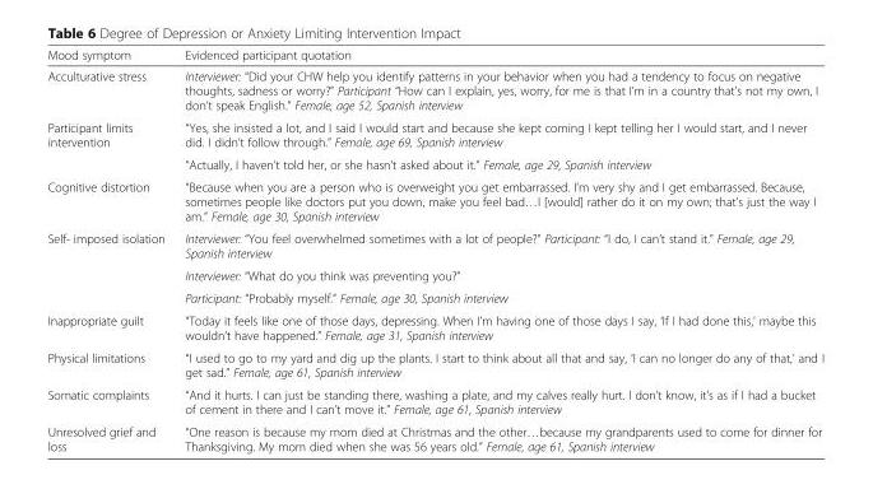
<table><thead><tr><td>Mood symptom</td><td>Evidenced participant quotation</td></tr></thead><tbody><tr><td>Acculturative stress</td><td>Interviewer: “Did your CHW help you identify patterns in your behavior when you had a tendency to focus on negative thoughts, sadness or worry?” Participant “How can I explain, yes, worry, for me is that I’m in a country that’s not my own, I don’t speak English.” Female, age 52, Spanish interview</td></tr><tr><td rowspan="2">Participant limits intervention</td><td>“Yes, she insisted a lot, and I said I would start and because she kept coming I kept telling her I would start, and I never did. I didn’t follow through.” Female, age 69, Spanish interview</td></tr><tr><td>“Actually, I haven’t told her, or she hasn’t asked about it.” Female, age 29, Spanish interview</td></tr><tr><td>Cognitive distortion</td><td>“Because when you are a person who is overweight you get embarrassed. I’m very shy and I get embarrassed. Because, sometimes people like doctors put you down, make you feel bad…I [would] rather do it on my own; that’s just the way I am.” Female, age 30, Spanish interview</td></tr><tr><td rowspan="3">Self- imposed isolation</td><td>Interviewer: “You feel overwhelmed sometimes with a lot of people?” Participant: “I do, I can’t stand it.” Female, age 29, Spanish interview</td></tr><tr><td>Interviewer: “What do you think was preventing you?”</td></tr><tr><td>Participant: “Probably myself.” Female, age 30, Spanish interview</td></tr><tr><td>Inappropriate guilt</td><td>“Today it feels like one of those days, depressing. When I’m having one of those days I say, ‘If I had done this,’ maybe this wouldn’t have happened.” Female, age 31, Spanish interview</td></tr><tr><td>Physical limitations</td><td>“I used to go to my yard and dig up the plants. I start to think about all that and say, ‘I can no longer do any of that,’ and I get sad.” Female, age 61, Spanish interview</td></tr><tr><td>Somatic complaints</td><td>“And it hurts. I can just be standing there, washing a plate, and my calves really hurt. I don’t know, it’s as if I had a bucket of cement in there and I can’t move it.” Female, age 61, Spanish interview</td></tr><tr><td>Unresolved grief and loss</td><td>“One reason is because my mom died at Christmas and the other…because my grandparents used to come for dinner for Thanksgiving. My mom died when she was 56 years old.” Female, age 61, Spanish interview</td></tr></tbody></table>